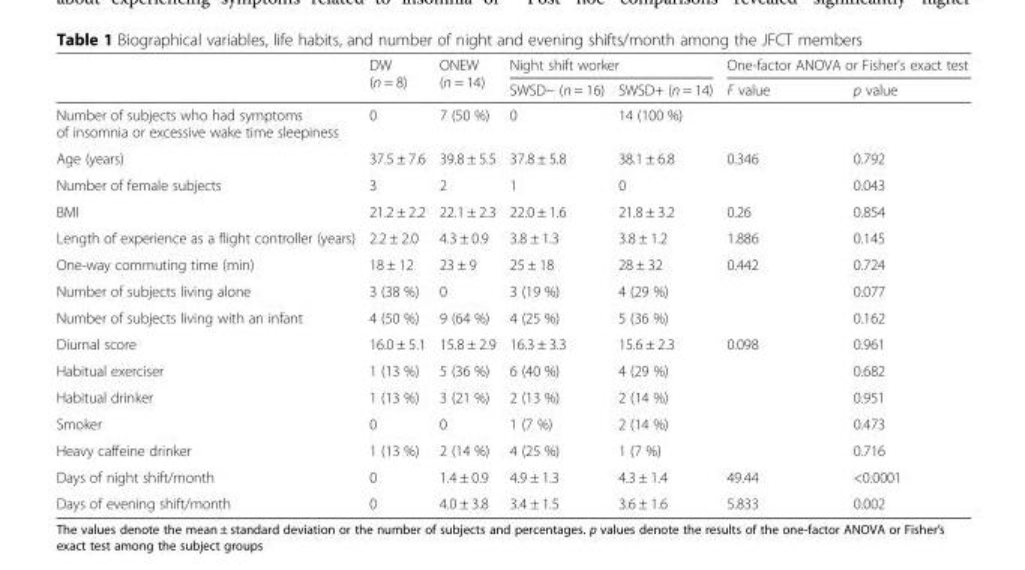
<table><thead><tr><td rowspan="2"></td><td rowspan="2">DW (n = 8)</td><td rowspan="2">ONEW (n = 14)</td><td colspan="2">Night shift worker</td><td colspan="2">One-factor ANOVA or Fisher’s exact test</td></tr><tr><td>SWSD− (n = 16)</td><td>SWSD+ (n = 14)</td><td>F value</td><td>p value</td></tr></thead><tbody><tr><td>Number of subjects who had symptoms of insomnia or excessive wake time sleepiness</td><td>0</td><td>7 (50 %)</td><td>0</td><td>14 (100 %)</td><td></td><td></td></tr><tr><td>Age (years)</td><td>37.5 ± 7.6</td><td>39.8 ± 5.5</td><td>37.8 ± 5.8</td><td>38.1 ± 6.8</td><td>0.346</td><td>0.792</td></tr><tr><td>Number of female subjects</td><td>3</td><td>2</td><td>1</td><td>0</td><td></td><td>0.043</td></tr><tr><td>BMI</td><td>21.2 ± 2.2</td><td>22.1 ± 2.3</td><td>22.0 ± 1.6</td><td>21.8 ± 3.2</td><td>0.26</td><td>0.854</td></tr><tr><td>Length of experience as a flight controller (years)</td><td>2.2 ± 2.0</td><td>4.3 ± 0.9</td><td>3.8 ± 1.3</td><td>3.8 ± 1.2</td><td>1.886</td><td>0.145</td></tr><tr><td>One-way commuting time (min)</td><td>18 ± 12</td><td>23 ± 9</td><td>25 ± 18</td><td>28 ± 32</td><td>0.442</td><td>0.724</td></tr><tr><td>Number of subjects living alone</td><td>3 (38 %)</td><td>0</td><td>3 (19 %)</td><td>4 (29 %)</td><td></td><td>0.077</td></tr><tr><td>Number of subjects living with an infant</td><td>4 (50 %)</td><td>9 (64 %)</td><td>4 (25 %)</td><td>5 (36 %)</td><td></td><td>0.162</td></tr><tr><td>Diurnal score</td><td>16.0 ± 5.1</td><td>15.8 ± 2.9</td><td>16.3 ± 3.3</td><td>15.6 ± 2.3</td><td>0.098</td><td>0.961</td></tr><tr><td>Habitual exerciser</td><td>1 (13 %)</td><td>5 (36 %)</td><td>6 (40 %)</td><td>4 (29 %)</td><td></td><td>0.682</td></tr><tr><td>Habitual drinker</td><td>1 (13 %)</td><td>3 (21 %)</td><td>2 (13 %)</td><td>2 (14 %)</td><td></td><td>0.951</td></tr><tr><td>Smoker</td><td>0</td><td>0</td><td>1 (7 %)</td><td>2 (14 %)</td><td></td><td>0.473</td></tr><tr><td>Heavy caffeine drinker</td><td>1 (13 %)</td><td>2 (14 %)</td><td>4 (25 %)</td><td>1 (7 %)</td><td></td><td>0.716</td></tr><tr><td>Days of night shift/month</td><td>0</td><td>1.4 ± 0.9</td><td>4.9 ± 1.3</td><td>4.3 ± 1.4</td><td>49.44</td><td>&lt;0.0001</td></tr><tr><td>Days of evening shift/month</td><td>0</td><td>4.0 ± 3.8</td><td>3.4 ± 1.5</td><td>3.6 ± 1.6</td><td>5.833</td><td>0.002</td></tr></tbody></table>